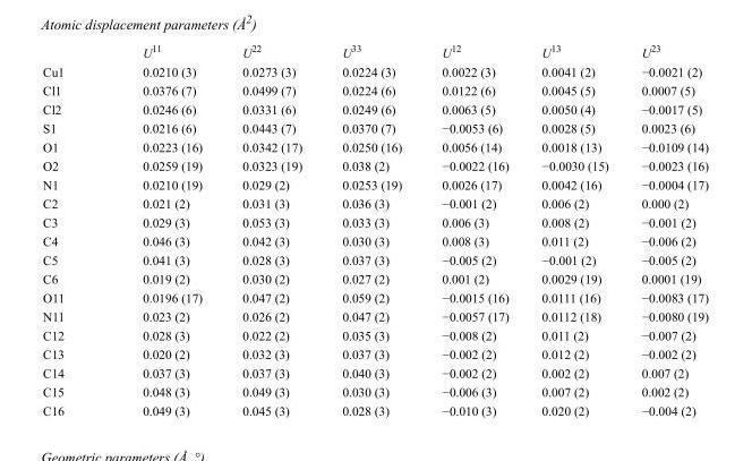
<table><thead><tr><td></td><td>U<sup>11</sup></td><td>U<sup>22</sup></td><td>U<sup>33</sup></td><td>U<sup>12</sup></td><td>U<sup>13</sup></td><td>U<sup>23</sup></td></tr></thead><tbody><tr><td>Cu1</td><td>0.0210 (3)</td><td>0.0273 (3)</td><td>0.0224 (3)</td><td>0.0022 (3)</td><td>0.0041 (2)</td><td>−0.0021 (2)</td></tr><tr><td>Cl1</td><td>0.0376 (7)</td><td>0.0499 (7)</td><td>0.0224 (6)</td><td>0.0122 (6)</td><td>0.0045 (5)</td><td>0.0007 (5)</td></tr><tr><td>Cl2</td><td>0.0246 (6)</td><td>0.0331 (6)</td><td>0.0249 (6)</td><td>0.0063 (5)</td><td>0.0050 (4)</td><td>−0.0017 (5)</td></tr><tr><td>S1</td><td>0.0216 (6)</td><td>0.0443 (7)</td><td>0.0370 (7)</td><td>−0.0053 (6)</td><td>0.0028 (5)</td><td>0.0023 (6)</td></tr><tr><td>O1</td><td>0.0223 (16)</td><td>0.0342 (17)</td><td>0.0250 (16)</td><td>0.0056 (14)</td><td>0.0018 (13)</td><td>−0.0109 (14)</td></tr><tr><td>O2</td><td>0.0259 (19)</td><td>0.0323 (19)</td><td>0.038 (2)</td><td>−0.0022 (16)</td><td>−0.0030 (15)</td><td>−0.0023 (16)</td></tr><tr><td>N1</td><td>0.0210 (19)</td><td>0.029 (2)</td><td>0.0253 (19)</td><td>0.0026 (17)</td><td>0.0042 (16)</td><td>−0.0004 (17)</td></tr><tr><td>C2</td><td>0.021 (2)</td><td>0.031 (3)</td><td>0.036 (3)</td><td>−0.001 (2)</td><td>0.006 (2)</td><td>0.000 (2)</td></tr><tr><td>C3</td><td>0.029 (3)</td><td>0.053 (3)</td><td>0.033 (3)</td><td>0.006 (3)</td><td>0.008 (2)</td><td>−0.001 (2)</td></tr><tr><td>C4</td><td>0.046 (3)</td><td>0.042 (3)</td><td>0.030 (3)</td><td>0.008 (3)</td><td>0.011 (2)</td><td>−0.006 (2)</td></tr><tr><td>C5</td><td>0.041 (3)</td><td>0.028 (3)</td><td>0.037 (3)</td><td>−0.005 (2)</td><td>−0.001 (2)</td><td>−0.005 (2)</td></tr><tr><td>C6</td><td>0.019 (2)</td><td>0.030 (2)</td><td>0.027 (2)</td><td>0.001 (2)</td><td>0.0029 (19)</td><td>0.0001 (19)</td></tr><tr><td>O11</td><td>0.0196 (17)</td><td>0.047 (2)</td><td>0.059 (2)</td><td>−0.0015 (16)</td><td>0.0111 (16)</td><td>−0.0083 (17)</td></tr><tr><td>N11</td><td>0.023 (2)</td><td>0.026 (2)</td><td>0.047 (2)</td><td>−0.0057 (17)</td><td>0.0112 (18)</td><td>−0.0080 (19)</td></tr><tr><td>C12</td><td>0.028 (3)</td><td>0.022 (2)</td><td>0.035 (3)</td><td>−0.008 (2)</td><td>0.011 (2)</td><td>−0.007 (2)</td></tr><tr><td>C13</td><td>0.020 (2)</td><td>0.032 (3)</td><td>0.037 (3)</td><td>−0.002 (2)</td><td>0.012 (2)</td><td>−0.002 (2)</td></tr><tr><td>C14</td><td>0.037 (3)</td><td>0.037 (3)</td><td>0.040 (3)</td><td>−0.002 (2)</td><td>0.002 (2)</td><td>0.007 (2)</td></tr><tr><td>C15</td><td>0.048 (3)</td><td>0.049 (3)</td><td>0.030 (3)</td><td>−0.006 (3)</td><td>0.007 (2)</td><td>0.002 (2)</td></tr><tr><td>C16</td><td>0.049 (3)</td><td>0.045 (3)</td><td>0.028 (3)</td><td>−0.010 (3)</td><td>0.020 (2)</td><td>−0.004 (2)</td></tr></tbody></table>